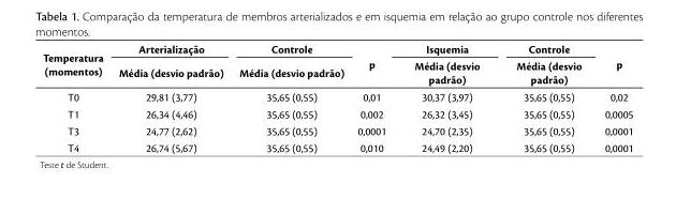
<table><thead><tr><td rowspan="2">Temperatura (momentos)</td><td rowspan="2">Arterialização Média (desvio padrão)</td><td rowspan="2">Controle Média (desvio padrão)</td><td rowspan="2">p</td><td rowspan="2">Isquemia Média (desvio padrão)</td><td rowspan="2">Controle Média (desvio padrão)</td><td rowspan="2">p</td></tr><tr></tr></thead><tbody><tr><td>T0</td><td>29,81 (3,77)</td><td>35,65 (0,55)</td><td>0,01</td><td>30,37 (3,97)</td><td>35,65 (0,55)</td><td>0,02</td></tr><tr><td>T1</td><td>26,34 (4,46)</td><td>35,65 (0,55)</td><td>0,002</td><td>26,32 (3,45)</td><td>35,65 (0,55)</td><td>0,0005</td></tr><tr><td>T3</td><td>24,77 (2,62)</td><td>35,65 (0,55)</td><td>0,0001</td><td>24,70 (2,35)</td><td>35,65 (0,55)</td><td>0,0001</td></tr><tr><td>T4</td><td>26,74 (5,67)</td><td>35,65 (0,55)</td><td>0,010</td><td>24,49 (2,20)</td><td>35,65 (0,55)</td><td>0,0001</td></tr></tbody></table>